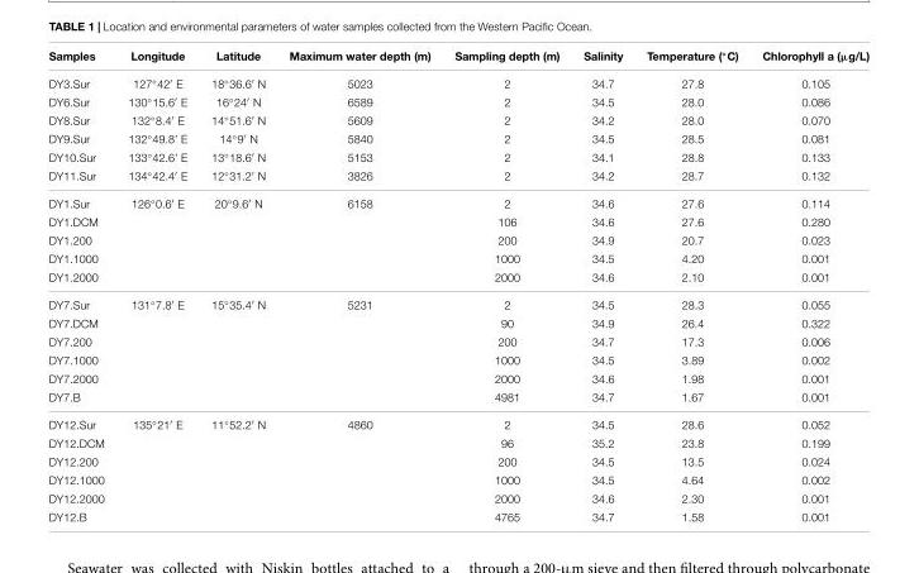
<table><thead><tr><td>Samples</td><td>Longitude</td><td>Latitude</td><td>Maximum water depth (m)</td><td>Sampling depth (m)</td><td>Salinity</td><td>Temperature (◦C)</td><td>Chlorophyll a (µg/L)</td></tr></thead><tbody><tr><td>DY3.Sur</td><td>127◦42′ E</td><td>18◦36.6′ N</td><td>5023</td><td>2</td><td>34.7</td><td>27.8</td><td>0.105</td></tr><tr><td>DY6.Sur</td><td>130◦15.6′ E</td><td>16◦24′ N</td><td>6589</td><td>2</td><td>34.5</td><td>28.0</td><td>0.086</td></tr><tr><td>DY8.Sur</td><td>132◦8.4′ E</td><td>14◦51.6′ N</td><td>5609</td><td>2</td><td>34.2</td><td>28.0</td><td>0.070</td></tr><tr><td>DY9.Sur</td><td>132◦49.8’ E</td><td>14◦9′ N</td><td>5840</td><td>2</td><td>34.5</td><td>28.5</td><td>0.081</td></tr><tr><td>DY10.Sur</td><td>133◦42.6’ E</td><td>13◦18.6′ N</td><td>5153</td><td>2</td><td>34.1</td><td>28.8</td><td>0.133</td></tr><tr><td>DY11.Sur</td><td>134◦42.4′ E</td><td>12◦31.2′ N</td><td>3826</td><td>2</td><td>34.2</td><td>28.7</td><td>0.132</td></tr><tr><td>DY1.Sur</td><td>126◦0.6′ E</td><td>20◦9.6′ N</td><td>6158</td><td>2</td><td>34.6</td><td>27.6</td><td>0.114</td></tr><tr><td>DY1.DCM</td><td></td><td></td><td></td><td>106</td><td>34.6</td><td>27.6</td><td>0.280</td></tr><tr><td>DY1.200</td><td></td><td></td><td></td><td>200</td><td>34.9</td><td>20.7</td><td>0.023</td></tr><tr><td>DY1.1000</td><td></td><td></td><td></td><td>1000</td><td>34.5</td><td>4.20</td><td>0.001</td></tr><tr><td>DY1.2000</td><td></td><td></td><td></td><td>2000</td><td>34.6</td><td>2.10</td><td>0.001</td></tr><tr><td>DY7.Sur</td><td>131◦7.8′ E</td><td>15◦35.4′ N</td><td>5231</td><td>2</td><td>34.5</td><td>28.3</td><td>0.055</td></tr><tr><td>DY7.DCM</td><td></td><td></td><td></td><td>90</td><td>34.9</td><td>26.4</td><td>0.322</td></tr><tr><td>DY7.200</td><td></td><td></td><td></td><td>200</td><td>34.7</td><td>17.3</td><td>0.006</td></tr><tr><td>DY7.1000</td><td></td><td></td><td></td><td>1000</td><td>34.5</td><td>3.89</td><td>0.002</td></tr><tr><td>DY7.2000</td><td></td><td></td><td></td><td>2000</td><td>34.6</td><td>1.98</td><td>0.001</td></tr><tr><td>DY7.B</td><td></td><td></td><td></td><td>4981</td><td>34.7</td><td>1.67</td><td>0.001</td></tr><tr><td>DY12.Sur</td><td>135◦21′ E</td><td>11◦52.2′ N</td><td>4860</td><td>2</td><td>34.5</td><td>28.6</td><td>0.052</td></tr><tr><td>DY12.DCM</td><td></td><td></td><td></td><td>96</td><td>35.2</td><td>23.8</td><td>0.199</td></tr><tr><td>DY12.200</td><td></td><td></td><td></td><td>200</td><td>34.5</td><td>13.5</td><td>0.024</td></tr><tr><td>DY12.1000</td><td></td><td></td><td></td><td>1000</td><td>34.5</td><td>4.64</td><td>0.002</td></tr><tr><td>DY12.2000</td><td></td><td></td><td></td><td>2000</td><td>34.6</td><td>2.30</td><td>0.001</td></tr><tr><td>DY12.B</td><td></td><td></td><td></td><td>4765</td><td>34.7</td><td>1.58</td><td>0.001</td></tr></tbody></table>